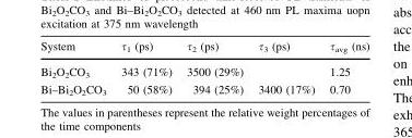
<table><thead><tr><td>System</td><td>τ<sub>1</sub> (ps)</td><td>τ<sub>2</sub> (ps)</td><td>τ<sub>3</sub> (ps)</td><td>τ<sub>avg</sub> (ns)</td></tr></thead><tbody><tr><td>Bi<sub>2</sub>O<sub>2</sub>CO<sub>3</sub></td><td>343 (71%)</td><td>3500 (29%)</td><td></td><td>1.25</td></tr><tr><td>Bi–Bi<sub>2</sub>O<sub>2</sub>CO<sub>3</sub></td><td>50 (58%)</td><td>394 (25%)</td><td>3400 (17%)</td><td>0.70</td></tr></tbody></table>